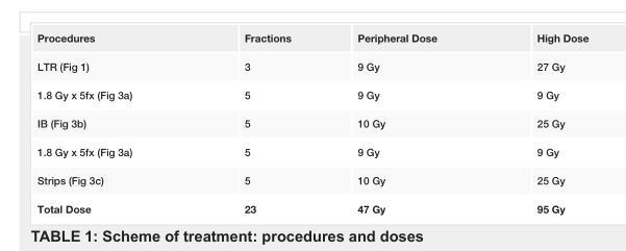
<table><tbody><tr><td>Procedures</td><td>Fractions</td><td>Peripheral Dose</td><td>High Dose</td></tr><tr><td>LTR (Fig 1)</td><td>3</td><td>9 Gy</td><td>27 Gy</td></tr><tr><td>1.8 Gy x 5fx (Fig 3a)</td><td>5</td><td>9 Gy</td><td>9 Gy</td></tr><tr><td>IB (Fig 3b)</td><td>5</td><td>10 Gy</td><td>25 Gy</td></tr><tr><td>1.8 Gy x 5fx (Fig 3a)</td><td>5</td><td>9 Gy</td><td>9 Gy</td></tr><tr><td>Strips (Fig 3c)</td><td>5</td><td>10 Gy</td><td>25 Gy</td></tr><tr><td>Total Dose</td><td>23</td><td>47 Gy</td><td>95 Gy</td></tr></tbody></table>